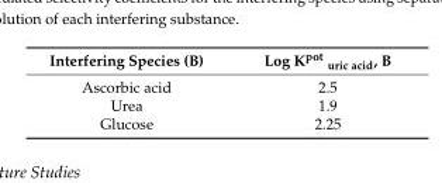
<table><thead><tr><td>Interfering Species (B)</td><td>Log K<sup>pot</sup> <sub>uric acid</sub>, B</td></tr></thead><tbody><tr><td>Ascorbic acid</td><td>2.5</td></tr><tr><td>Urea</td><td>1.9</td></tr><tr><td>Glucose</td><td>2.25</td></tr></tbody></table>